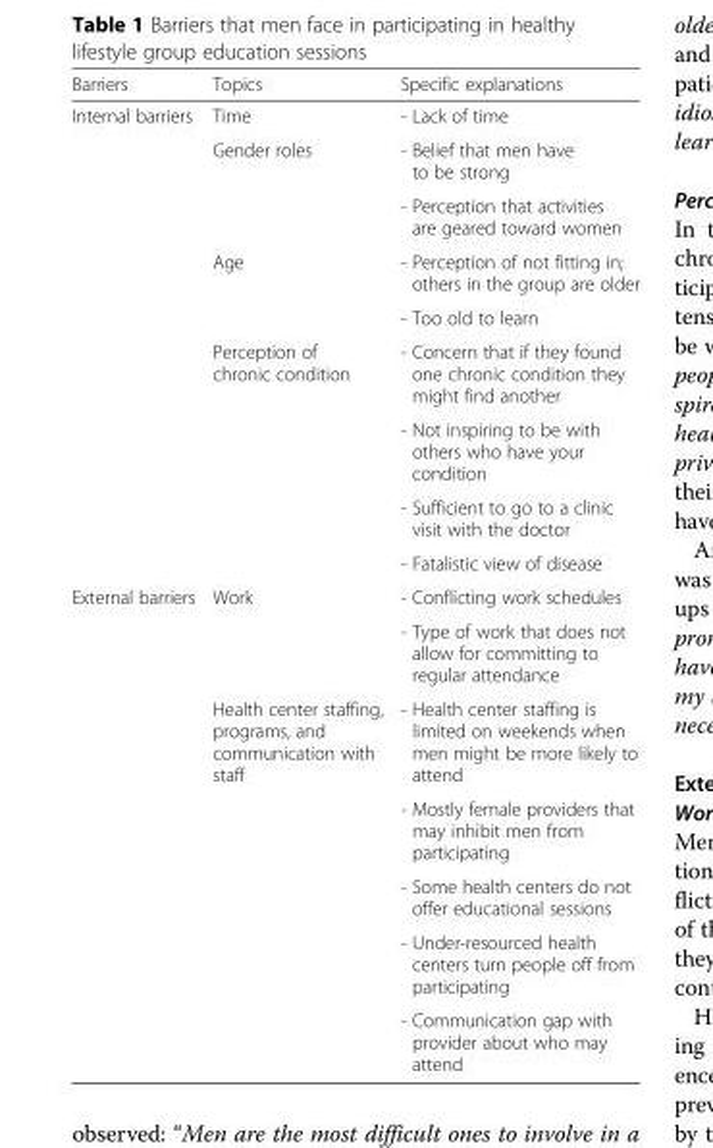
<table><thead><tr><td>Barriers</td><td>Topics</td><td>Specific explanations</td></tr></thead><tbody><tr><td rowspan="9">Internal barriers</td><td>Time</td><td>- Lack of time</td></tr><tr><td rowspan="2">Gender roles</td><td>- Belief that men have to be strong</td></tr><tr><td>- Perception that activities are geared toward women</td></tr><tr><td rowspan="2">Age</td><td>- Perception of not fitting in; others in the group are older</td></tr><tr><td>- Too old to learn</td></tr><tr><td rowspan="4">Perception of chronic condition</td><td>- Concern that if they found one chronic condition they might find another</td></tr><tr><td>- Not inspiring to be with others who have your condition</td></tr><tr><td>- Sufficient to go to a clinic visit with the doctor</td></tr><tr><td>- Fatalistic view of disease</td></tr><tr><td rowspan="7">External barriers</td><td rowspan="2">Work</td><td>- Conflicting work schedules</td></tr><tr><td>- Type of work that does not allow for committing to regular attendance</td></tr><tr><td rowspan="5">Health center staffing, programs, and communication with staff</td><td>- Health center staffing is limited on weekends when men might be more likely to attend</td></tr><tr><td>- Mostly female providers that may inhibit men from participating</td></tr><tr><td>- Some health centers do not offer educational sessions</td></tr><tr><td>- Under-resourced health centers turn people off from participating</td></tr><tr><td>- Communication gap with provider about who may attend</td></tr></tbody></table>